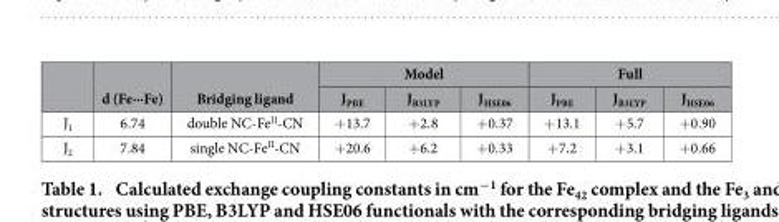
<table><thead><tr><td rowspan="2"></td><td rowspan="2"><sub>d (Fe···Fe)</sub></td><td rowspan="2"><sub>Bridging ligand</sub></td><td colspan="3"><sub>Model</sub></td><td colspan="3"><sub>Full</sub></td></tr><tr><td>JPBE</td><td>JB3LYP</td><td>JHSE06</td><td>JPBE</td><td>JB3LYP</td><td>JHSE06</td></tr></thead><tbody><tr><td>J<sub>1</sub></td><td><sub>6.74</sub></td><td>double NC-Fe<sup>II</sup>-CN</td><td>+13.7</td><td>+2.8</td><td>+0.37</td><td>+13.1</td><td>+5.7</td><td>+0.90</td></tr><tr><td>J<sub>2</sub></td><td><sub>7.84</sub></td><td>single NC-Fe<sup>II</sup>-CN</td><td>+20.6</td><td>+6.2</td><td>+0.33</td><td>+7.2</td><td>+3.1</td><td>+0.66</td></tr></tbody></table>